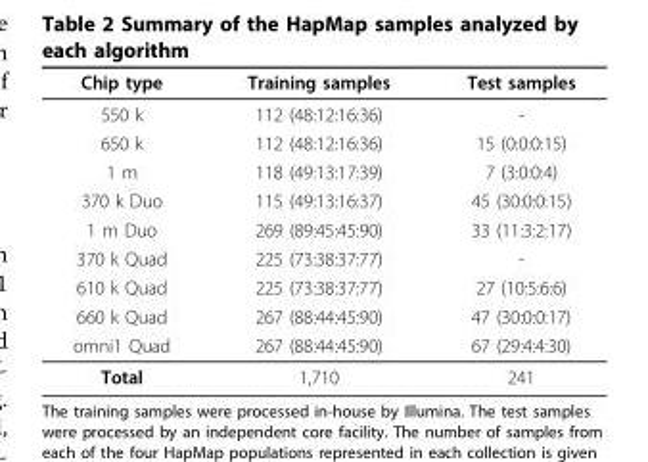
<table><thead><tr><td>Chip type</td><td>Training samples</td><td>Test samples</td></tr></thead><tbody><tr><td>550 k</td><td>112 (48:12:16:36)</td><td>-</td></tr><tr><td>650 k</td><td>112 (48:12:16:36)</td><td>15 (0:0:0:15)</td></tr><tr><td>1 m</td><td>118 (49:13:17:39)</td><td>7 (3:0:0:4)</td></tr><tr><td>370 k Duo</td><td>115 (49:13:16:37)</td><td>45 (30:0:0:15)</td></tr><tr><td>1 m Duo</td><td>269 (89:45:45:90)</td><td>33 (11:3:2:17)</td></tr><tr><td>370 k Quad</td><td>225 (73:38:37:77)</td><td>-</td></tr><tr><td>610 k Quad</td><td>225 (73:38:37:77)</td><td>27 (10:5:6:6)</td></tr><tr><td>660 k Quad</td><td>267 (88:44:45:90)</td><td>47 (30:0:0:17)</td></tr><tr><td>omni1 Quad</td><td>267 (88:44:45:90)</td><td>67 (29:4:4:30)</td></tr><tr><td>Total</td><td>1,710</td><td>241</td></tr></tbody></table>